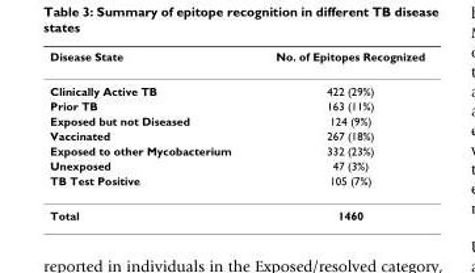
<table><thead><tr><td>Disease State</td><td>No. of Epitopes Recognized</td></tr></thead><tbody><tr><td>Clinically Active TB</td><td>422 (29%)</td></tr><tr><td>Prior TB</td><td>163 (11%)</td></tr><tr><td>Exposed but not Diseased</td><td>124 (9%)</td></tr><tr><td>Vaccinated</td><td>267 (18%)</td></tr><tr><td>Exposed to other Mycobacterium</td><td>332 (23%)</td></tr><tr><td>Unexposed</td><td>47 (3%)</td></tr><tr><td>TB Test Positive</td><td>105 (7%)</td></tr><tr><td>Total</td><td>1460</td></tr></tbody></table>